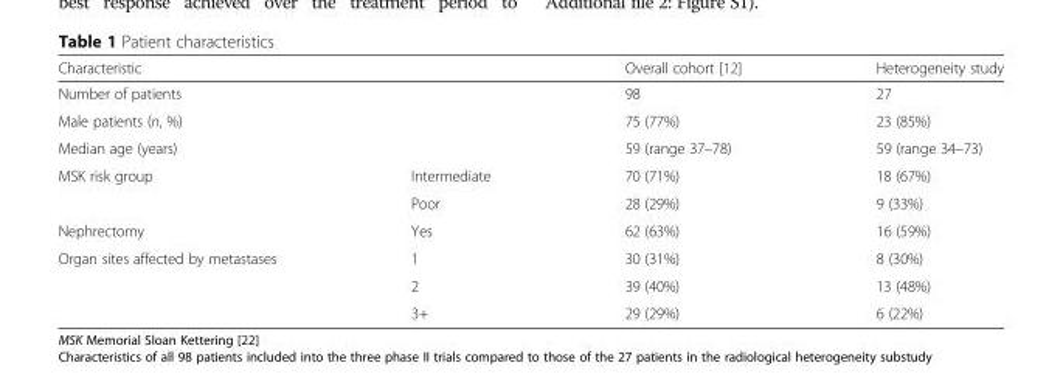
<table><thead><tr><td colspan="2">Characteristic</td><td rowspan="2">Overall cohort [12] 98</td><td rowspan="2">Heterogeneity study 27</td></tr><tr><td>Number of patients</td><td></td></tr></thead><tbody><tr><td>Male patients (n, %)</td><td></td><td>75 (77%)</td><td>23 (85%)</td></tr><tr><td>Median age (years)</td><td></td><td>59 (range 37–78)</td><td>59 (range 34–73)</td></tr><tr><td rowspan="2">MSK risk group</td><td>Intermediate</td><td>70 (71%)</td><td>18 (67%)</td></tr><tr><td>Poor</td><td>28 (29%)</td><td>9 (33%)</td></tr><tr><td>Nephrectomy</td><td>Yes</td><td>62 (63%)</td><td>16 (59%)</td></tr><tr><td rowspan="3">Organ sites affected by metastases</td><td>1</td><td>30 (31%)</td><td>8 (30%)</td></tr><tr><td>2</td><td>39 (40%)</td><td>13 (48%)</td></tr><tr><td>3+</td><td>29 (29%)</td><td>6 (22%)</td></tr></tbody></table>